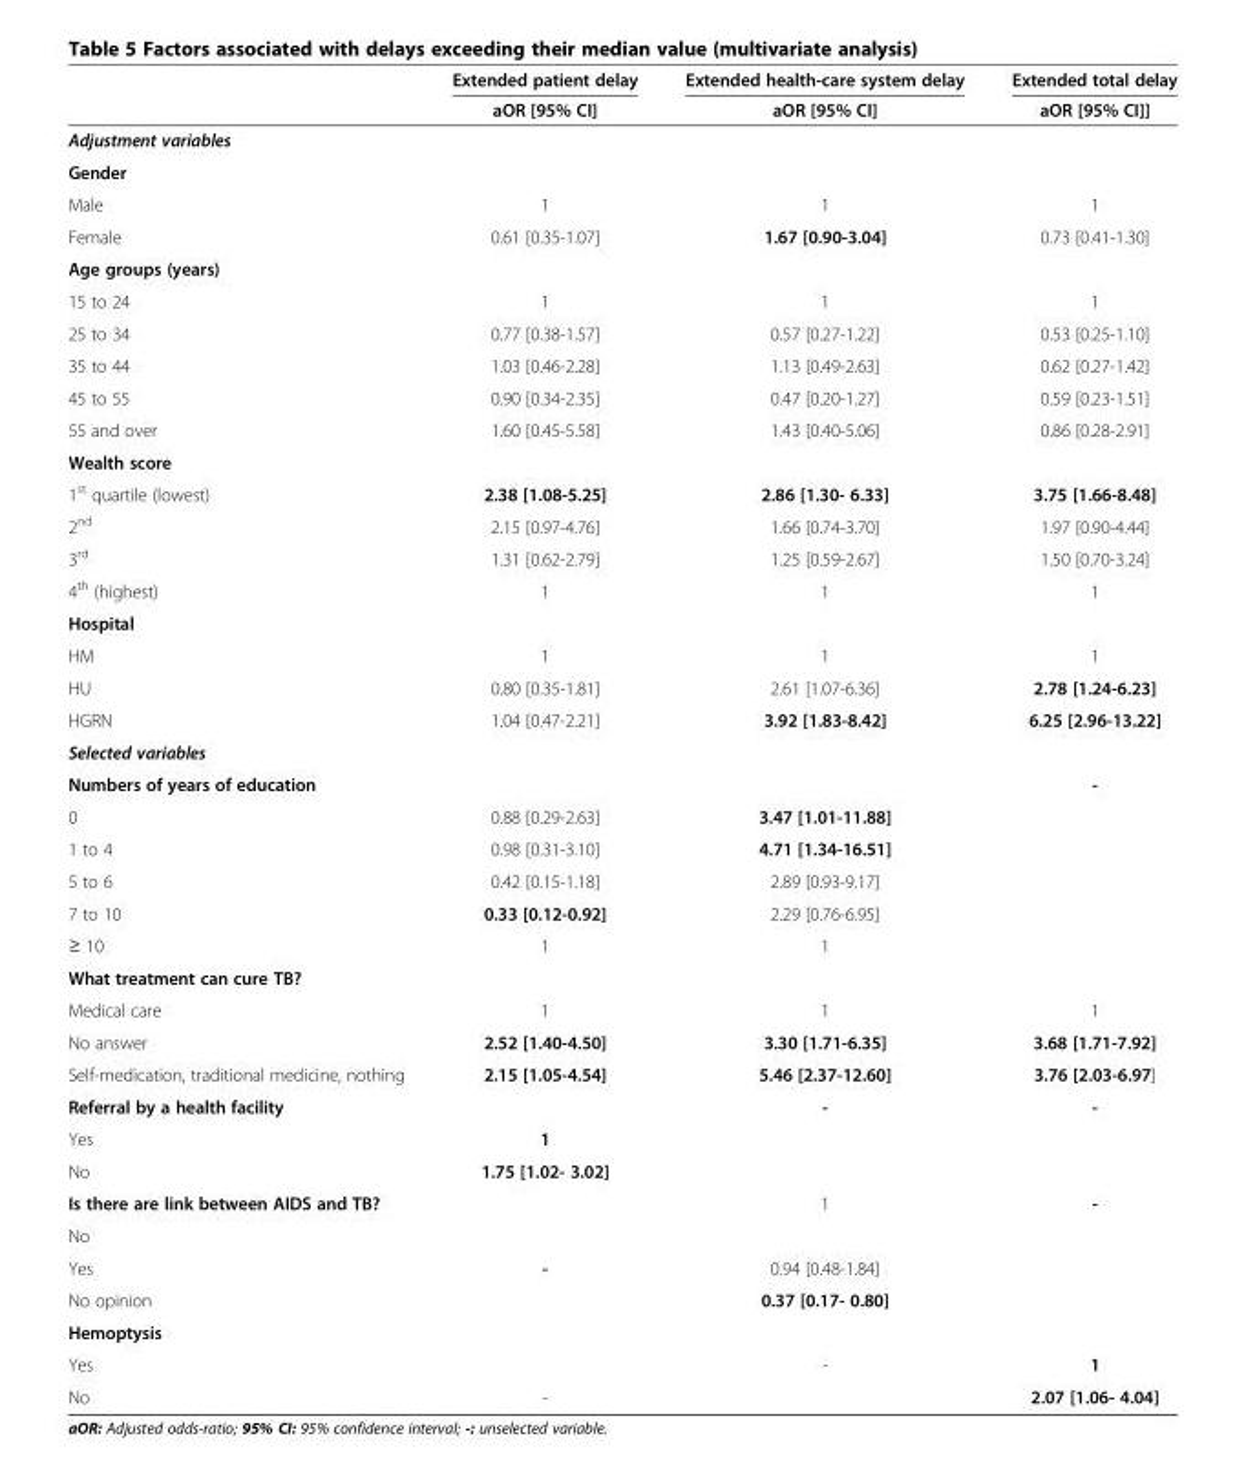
<table><thead><tr><td rowspan="2"></td><td rowspan="2">Extended patient delay aOR [95% CI]</td><td rowspan="2">Extended health-care system delay aOR [95% CI]</td><td rowspan="2">Extended total delay aOR [95% CI]]</td></tr><tr></tr></thead><tbody><tr><td colspan="4">Adjustment variables</td></tr><tr><td colspan="4">Gender</td></tr><tr><td>Male</td><td>1</td><td>1</td><td>1</td></tr><tr><td>Female</td><td>0.61 [0.35-1.07]</td><td>1.67 [0.90-3.04]</td><td>0.73 [0.41-1.30]</td></tr><tr><td colspan="4">Age groups (years)</td></tr><tr><td>15 to 24</td><td>1</td><td>1</td><td>1</td></tr><tr><td>25 to 34</td><td>0.77 [0.38-1.57]</td><td>0.57 [0.27-1.22]</td><td>0.53 [0.25-1.10]</td></tr><tr><td>35 to 44</td><td>1.03 [0.46-2.28]</td><td>1.13 [0.49-2.63]</td><td>0.62 [0.27-1.42]</td></tr><tr><td>45 to 55</td><td>0.90 [0.34-2.35]</td><td>0.47 [0.20-1.27]</td><td>0.59 [0.23-1.51]</td></tr><tr><td>55 and over</td><td>1.60 [0.45-5.58]</td><td>1.43 [0.40-5.06]</td><td>0.86 [0.28-2.91]</td></tr><tr><td colspan="4">Wealth score</td></tr><tr><td>1<sup>st</sup> quartile (lowest)</td><td>2.38 [1.08-5.25]</td><td>2.86 [1.30- 6.33]</td><td>3.75 [1.66-8.48]</td></tr><tr><td>2<sup>nd</sup></td><td>2.15 [0.97-4.76]</td><td>1.66 [0.74-3.70]</td><td>1.97 [0.90-4.44]</td></tr><tr><td>3<sup>rd</sup></td><td>1.31 [0.62-2.79]</td><td>1.25 [0.59-2.67]</td><td>1.50 [0.70-3.24]</td></tr><tr><td>4<sup>th</sup> (highest)</td><td>1</td><td>1</td><td>1</td></tr><tr><td colspan="4">Hospital</td></tr><tr><td>HM</td><td>1</td><td>1</td><td>1</td></tr><tr><td>HU</td><td>0.80 [0.35-1.81]</td><td>2.61 [1.07-6.36]</td><td>2.78 [1.24-6.23]</td></tr><tr><td>HGRN</td><td>1.04 [0.47-2.21]</td><td>3.92 [1.83-8.42]</td><td>6.25 [2.96-13.22]</td></tr><tr><td colspan="4">Selected variables</td></tr><tr><td>Numbers of years of education</td><td></td><td></td><td>-</td></tr><tr><td>0</td><td>0.88 [0.29-2.63]</td><td>3.47 [1.01-11.88]</td><td></td></tr><tr><td>1 to 4</td><td>0.98 [0.31-3.10]</td><td>4.71 [1.34-16.51]</td><td></td></tr><tr><td>5 to 6</td><td>0.42 [0.15-1.18]</td><td>2.89 [0.93-9.17]</td><td></td></tr><tr><td>7 to 10</td><td>0.33 [0.12-0.92]</td><td>2.29 [0.76-6.95]</td><td></td></tr><tr><td>≥ 10</td><td>1</td><td>1</td><td></td></tr><tr><td colspan="4">What treatment can cure TB?</td></tr><tr><td>Medical care</td><td>1</td><td>1</td><td>1</td></tr><tr><td>No answer</td><td>2.52 [1.40-4.50]</td><td>3.30 [1.71-6.35]</td><td>3.68 [1.71-7.92]</td></tr><tr><td>Self-medication, traditional medicine, nothing</td><td>2.15 [1.05-4.54]</td><td>5.46 [2.37-12.60]</td><td>3.76 [2.03-6.97]</td></tr><tr><td>Referral by a health facility</td><td></td><td>-</td><td>-</td></tr><tr><td>Yes</td><td>1</td><td></td><td></td></tr><tr><td>No</td><td>1.75 [1.02- 3.02]</td><td></td><td></td></tr><tr><td>Is there are link between AIDS and TB?</td><td></td><td>1</td><td>-</td></tr><tr><td colspan="4">No</td></tr><tr><td>Yes</td><td>-</td><td>0.94 [0.48-1.84]</td><td></td></tr><tr><td>No opinion</td><td></td><td>0.37 [0.17- 0.80]</td><td></td></tr><tr><td colspan="4">Hemoptysis</td></tr><tr><td>Yes</td><td></td><td>-</td><td>1</td></tr><tr><td>No</td><td>-</td><td></td><td>2.07 [1.06- 4.04]</td></tr></tbody></table>